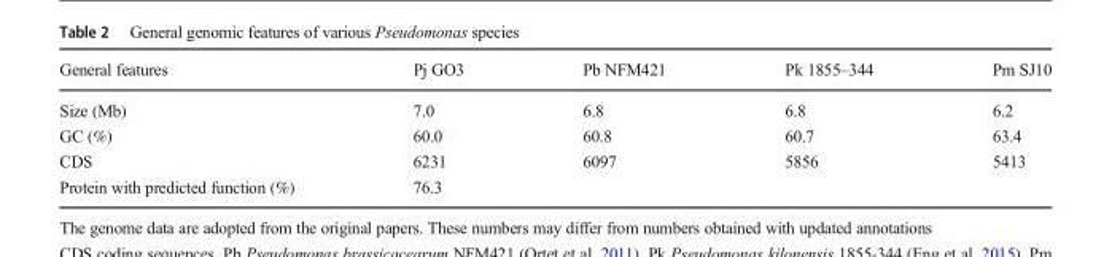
<table><thead><tr><td>General features</td><td>Pj GO3</td><td>Pb NFM421</td><td>Pk 1855–344</td><td>Pm SJ10</td></tr></thead><tbody><tr><td>Size (Mb)</td><td>7.0</td><td>6.8</td><td>6.8</td><td>6.2</td></tr><tr><td>GC (%)</td><td>60.0</td><td>60.8</td><td>60.7</td><td>63.4</td></tr><tr><td>CDS</td><td>6231</td><td>6097</td><td>5856</td><td>5413</td></tr><tr><td>Protein with predicted function (%)</td><td>76.3</td><td></td><td></td><td></td></tr></tbody></table>